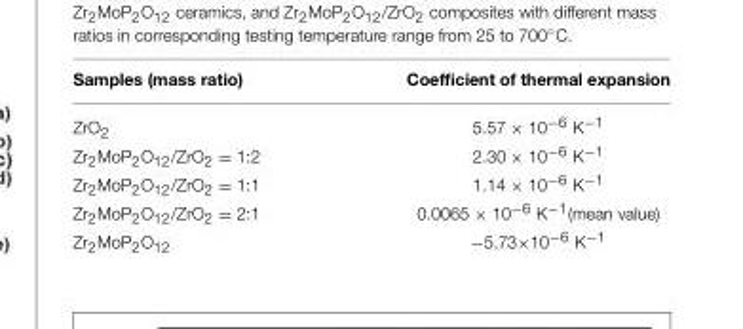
<table><thead><tr><td>Samples (mass ratio)</td><td>Coefficient of thermal expansion</td></tr></thead><tbody><tr><td>ZrO<sub>2</sub></td><td>5.57 × 10<sup>−6</sup> K<sup>−1</sup></td></tr><tr><td>Zr<sub>2</sub>MoP<sub>2</sub>O<sub>12</sub>/ZrO<sub>2</sub> = 1:2</td><td>2.30 × 10<sup>−6</sup> K<sup>−1</sup></td></tr><tr><td>Zr<sub>2</sub>MoP<sub>2</sub>O<sub>12</sub>/ZrO<sub>2</sub> = 1:1</td><td>1.14 × 10<sup>−6</sup> K<sup>−1</sup></td></tr><tr><td>Zr<sub>2</sub>MoP<sub>2</sub>O<sub>12</sub>/ZrO<sub>2</sub> = 2:1</td><td>0.0065 × 10<sup>−6</sup> K<sup>−1</sup>(mean value)</td></tr><tr><td>Zr<sub>2</sub>MoP<sub>2</sub>O<sub>12</sub></td><td>−5.73×10<sup>−6</sup> K<sup>−1</sup></td></tr></tbody></table>